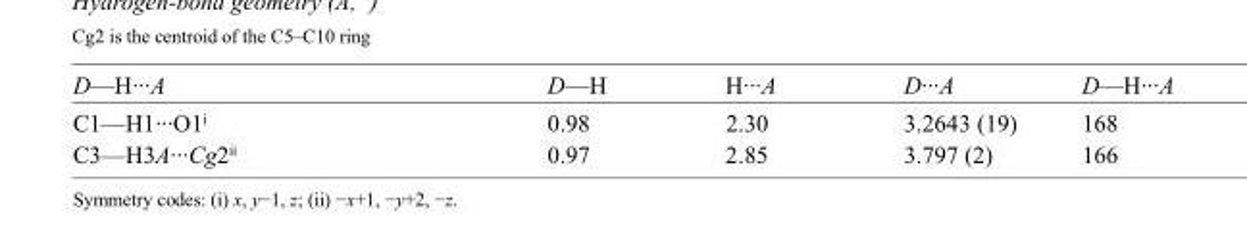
<table><tbody><tr><td>D—H···A</td><td>D—H</td><td>H···A</td><td>D···A</td><td>D—H···A</td></tr><tr><td>C1—H1···O1<sup>i</sup></td><td>0.98</td><td>2.30</td><td>3.2643 (19)</td><td>168</td></tr><tr><td>C3—H3A···Cg2<sup>ii</sup></td><td>0.97</td><td>2.85</td><td>3.797 (2)</td><td>166</td></tr></tbody></table>